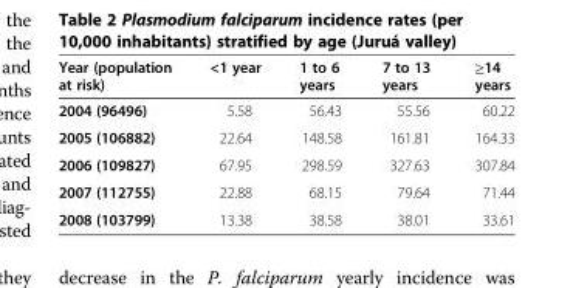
<table><thead><tr><td>Year (population at risk)</td><td>&lt;1 year</td><td>1 to 6 years</td><td>7 to 13 years</td><td>≥14 years</td></tr></thead><tbody><tr><td>2004 (96496)</td><td>5.58</td><td>56.43</td><td>55.56</td><td>60.22</td></tr><tr><td>2005 (106882)</td><td>22.64</td><td>148.58</td><td>161.81</td><td>164.33</td></tr><tr><td>2006 (109827)</td><td>67.95</td><td>298.59</td><td>327.63</td><td>307.84</td></tr><tr><td>2007 (112755)</td><td>22.88</td><td>68.15</td><td>79.64</td><td>71.44</td></tr><tr><td>2008 (103799)</td><td>13.38</td><td>38.58</td><td>38.01</td><td>33.61</td></tr></tbody></table>